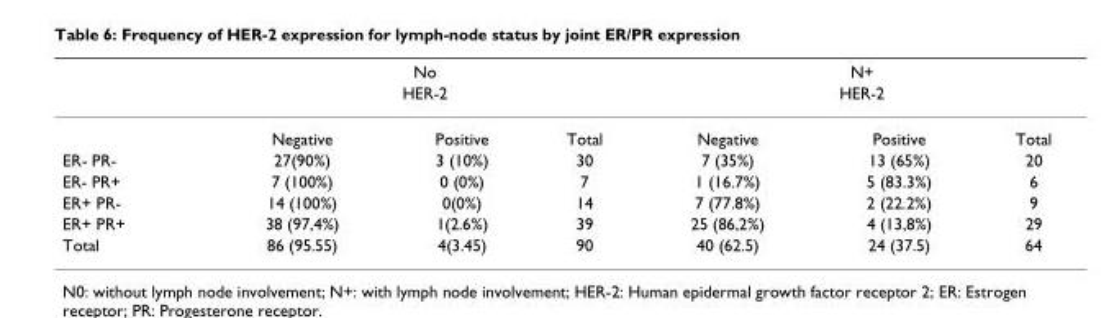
<table><thead><tr><td rowspan="3"></td><td rowspan="2" colspan="3">No HER-2</td><td rowspan="2" colspan="3">N+ HER-2</td></tr><tr></tr><tr><td>Negative</td><td>Positive</td><td>Total</td><td>Negative</td><td>Positive</td><td>Total</td></tr></thead><tbody><tr><td>ER- PR-</td><td>27(90%)</td><td>3 (10%)</td><td>30</td><td>7 (35%)</td><td>13 (65%)</td><td>20</td></tr><tr><td>ER- PR+</td><td>7 (100%)</td><td>0 (0%)</td><td>7</td><td>1 (16.7%)</td><td>5 (83.3%)</td><td>6</td></tr><tr><td>ER+ PR-</td><td>14 (100%)</td><td>0(0%)</td><td>14</td><td>7 (77.8%)</td><td>2 (22.2%)</td><td>9</td></tr><tr><td>ER+ PR+</td><td>38 (97,4%)</td><td>1(2.6%)</td><td>39</td><td>25 (86,2%)</td><td>4 (13,8%)</td><td>29</td></tr><tr><td>Total</td><td>86 (95.55)</td><td>4(3.45)</td><td>90</td><td>40 (62.5)</td><td>24 (37.5)</td><td>64</td></tr></tbody></table>